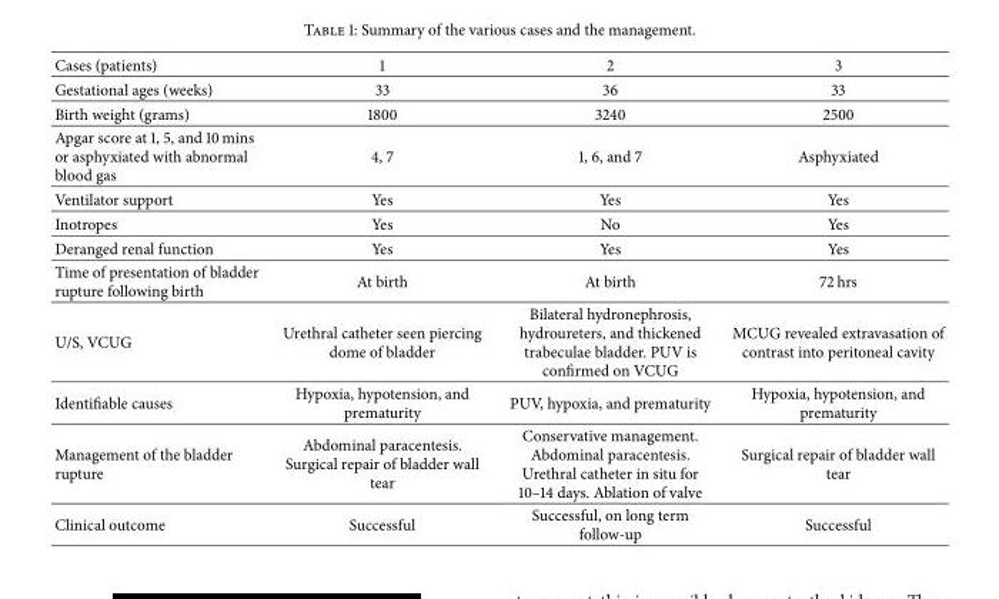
<table><thead><tr><td>Cases (patients)</td><td>1</td><td>2</td><td>3</td></tr></thead><tbody><tr><td>Gestational ages (weeks)</td><td>33</td><td>36</td><td>33</td></tr><tr><td>Birth weight (grams)</td><td>1800</td><td>3240</td><td>2500</td></tr><tr><td>Apgar score at 1, 5, and 10 mins or asphyxiated with abnormal blood gas</td><td>4, 7</td><td>1, 6, and 7</td><td>Asphyxiated</td></tr><tr><td>Ventilator support</td><td>Yes</td><td>Yes</td><td>Yes</td></tr><tr><td>Inotropes</td><td>Yes</td><td>No</td><td>Yes</td></tr><tr><td>Deranged renal function</td><td>Yes</td><td>Yes</td><td>Yes</td></tr><tr><td>Time of presentation of bladder rupture following birth</td><td>At birth</td><td>At birth</td><td>72 hrs</td></tr><tr><td>U/S, VCUG</td><td>Urethral catheter seen piercing dome of bladder</td><td>Bilateral hydronephrosis, hydroureters, and thickened trabeculae bladder. PUV is confirmed on VCUG</td><td>MCUG revealed extravasation of contrast into peritoneal cavity</td></tr><tr><td>Identifiable causes</td><td>Hypoxia, hypotension, and prematurity</td><td>PUV, hypoxia, and prematurity</td><td>Hypoxia, hypotension, and prematurity</td></tr><tr><td>Management of the bladder rupture</td><td>Abdominal paracentesis. Surgical repair of bladder wall tear</td><td>Conservative management. Abdominal paracentesis. Urethral catheter in situ for 10–14 days. Ablation of valve</td><td>Surgical repair of bladder wall tear</td></tr><tr><td>Clinical outcome</td><td>Successful</td><td>Successful, on long term follow-up</td><td>Successful</td></tr></tbody></table>